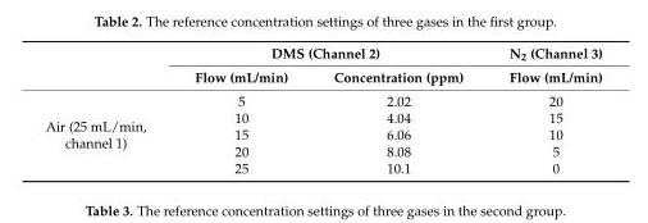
<table><thead><tr><td rowspan="2"></td><td colspan="2">DMS (Channel 2)</td><td rowspan="2">N<sub>2</sub> (Channel 3) Flow (mL/min)</td></tr><tr><td>Flow (mL/min)</td><td>Concentration (ppm)</td></tr></thead><tbody><tr><td rowspan="5">Air (25 mL/min, channel 1)</td><td>5</td><td>2.02</td><td>20</td></tr><tr><td>10</td><td>4.04</td><td>15</td></tr><tr><td>15</td><td>6.06</td><td>10</td></tr><tr><td>20</td><td>8.08</td><td>5</td></tr><tr><td>25</td><td>10.1</td><td>0</td></tr></tbody></table>